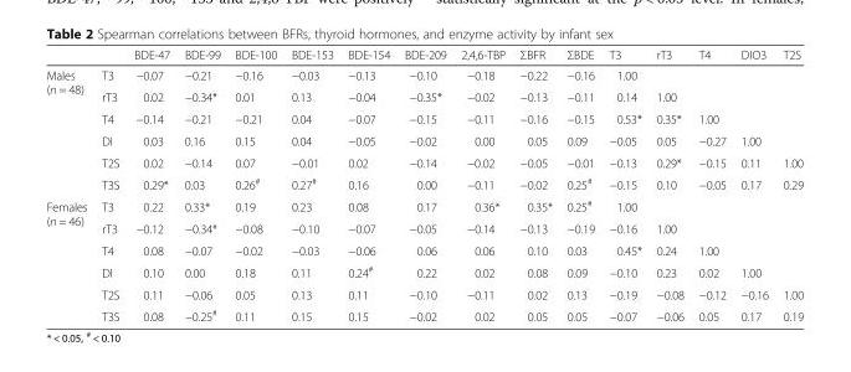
<table><thead><tr><td></td><td></td><td>BDE-47</td><td>BDE-99</td><td>BDE-100</td><td>BDE-153</td><td>BDE-154</td><td>BDE-209</td><td>2,4,6-TBP</td><td>ΣBFR</td><td>ΣBDE</td><td>T3</td><td>rT3</td><td>T4</td><td>DIO3</td><td>T2S</td></tr></thead><tbody><tr><td rowspan="6">Males (n = 48)</td><td>T3</td><td>−0.07</td><td>−0.21</td><td>−0.16</td><td>−0.03</td><td>−0.13</td><td>−0.10</td><td>−0.18</td><td>−0.22</td><td>−0.16</td><td>1.00</td><td></td><td></td><td></td><td></td></tr><tr><td>rT3</td><td>0.02</td><td>−0.34*</td><td>0.01</td><td>0.13</td><td>−0.04</td><td>−0.35*</td><td>−0.02</td><td>−0.13</td><td>−0.11</td><td>0.14</td><td>1.00</td><td></td><td></td><td></td></tr><tr><td>T4</td><td>−0.14</td><td>−0.21</td><td>−0.21</td><td>0.04</td><td>−0.07</td><td>−0.15</td><td>−0.11</td><td>−0.16</td><td>−0.15</td><td>0.53*</td><td>0.35*</td><td>1.00</td><td></td><td></td></tr><tr><td>DI</td><td>0.03</td><td>0.16</td><td>0.15</td><td>0.04</td><td>−0.05</td><td>−0.02</td><td>0.00</td><td>0.05</td><td>0.09</td><td>−0.05</td><td>0.05</td><td>−0.27</td><td>1.00</td><td></td></tr><tr><td>T2S</td><td>0.02</td><td>−0.14</td><td>0.07</td><td>−0.01</td><td>0.02</td><td>−0.14</td><td>−0.02</td><td>−0.05</td><td>−0.01</td><td>−0.13</td><td>0.29*</td><td>−0.15</td><td>0.11</td><td>1.00</td></tr><tr><td>T3S</td><td>0.29*</td><td>0.03</td><td>0.26<sup>#</sup></td><td>0.27<sup>#</sup></td><td>0.16</td><td>0.00</td><td>−0.11</td><td>−0.02</td><td>0.25<sup>#</sup></td><td>−0.15</td><td>0.10</td><td>−0.05</td><td>0.17</td><td>0.29</td></tr><tr><td rowspan="6">Females (n = 46)</td><td>T3</td><td>0.22</td><td>0.33*</td><td>0.19</td><td>0.23</td><td>0.08</td><td>0.17</td><td>0.36*</td><td>0.35*</td><td>0.25<sup>#</sup></td><td>1.00</td><td></td><td></td><td></td><td></td></tr><tr><td>rT3</td><td>−0.12</td><td>−0.34*</td><td>−0.08</td><td>−0.10</td><td>−0.07</td><td>−0.05</td><td>−0.14</td><td>−0.13</td><td>−0.19</td><td>−0.16</td><td>1.00</td><td></td><td></td><td></td></tr><tr><td>T4</td><td>0.08</td><td>−0.07</td><td>−0.02</td><td>−0.03</td><td>−0.06</td><td>0.06</td><td>0.06</td><td>0.10</td><td>0.03</td><td>0.45*</td><td>0.24</td><td>1.00</td><td></td><td></td></tr><tr><td>DI</td><td>0.10</td><td>0.00</td><td>0.18</td><td>0.11</td><td>0.24<sup>#</sup></td><td>0.22</td><td>0.02</td><td>0.08</td><td>0.09</td><td>−0.10</td><td>0.23</td><td>0.02</td><td>1.00</td><td></td></tr><tr><td>T2S</td><td>0.11</td><td>−0.06</td><td>0.05</td><td>0.13</td><td>0.11</td><td>−0.10</td><td>−0.11</td><td>0.02</td><td>0.13</td><td>−0.19</td><td>−0.08</td><td>−0.12</td><td>−0.16</td><td>1.00</td></tr><tr><td>T3S</td><td>0.08</td><td>−0.25<sup>#</sup></td><td>0.11</td><td>0.15</td><td>0.15</td><td>−0.02</td><td>0.02</td><td>0.05</td><td>0.05</td><td>−0.07</td><td>−0.06</td><td>0.05</td><td>0.17</td><td>0.19</td></tr></tbody></table>